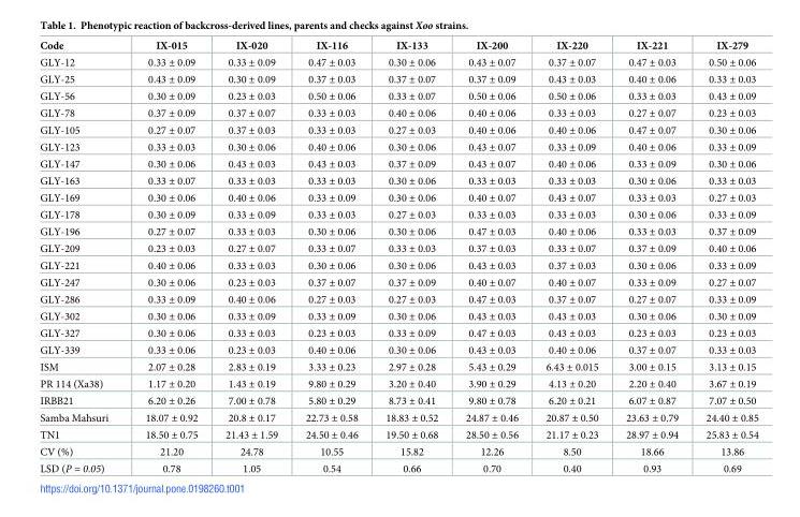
<table><thead><tr><td>Code</td><td>IX-015</td><td>IX-020</td><td>IX-116</td><td>IX-133</td><td>IX-200</td><td>IX-220</td><td>IX-221</td><td>IX-279</td></tr></thead><tbody><tr><td>GLY-12</td><td>0.33 ± 0.09</td><td>0.33 ± 0.09</td><td>0.47 ± 0.03</td><td>0.30 ± 0.06</td><td>0.43 ± 0.07</td><td>0.37 ± 0.07</td><td>0.47 ± 0.03</td><td>0.50 ± 0.06</td></tr><tr><td>GLY-25</td><td>0.43 ± 0.09</td><td>0.30 ± 0.09</td><td>0.37 ± 0.03</td><td>0.37 ± 0.07</td><td>0.37 ± 0.09</td><td>0.43 ± 0.03</td><td>0.40 ± 0.06</td><td>0.33 ± 0.03</td></tr><tr><td>GLY-56</td><td>0.30 ± 0.09</td><td>0.23 ± 0.03</td><td>0.50 ± 0.06</td><td>0.33 ± 0.07</td><td>0.50 ± 0.06</td><td>0.50 ± 0.06</td><td>0.33 ± 0.03</td><td>0.43 ± 0.09</td></tr><tr><td>GLY-78</td><td>0.37 ± 0.09</td><td>0.37 ± 0.07</td><td>0.33 ± 0.03</td><td>0.40 ± 0.06</td><td>0.40 ± 0.06</td><td>0.33 ± 0.03</td><td>0.27 ± 0.07</td><td>0.23 ± 0.03</td></tr><tr><td>GLY-105</td><td>0.27 ± 0.07</td><td>0.37 ± 0.03</td><td>0.33 ± 0.03</td><td>0.27 ± 0.03</td><td>0.40 ± 0.06</td><td>0.40 ± 0.06</td><td>0.47 ± 0.07</td><td>0.30 ± 0.06</td></tr><tr><td>GLY-123</td><td>0.33 ± 0.03</td><td>0.30 ± 0.06</td><td>0.40 ± 0.06</td><td>0.30 ± 0.06</td><td>0.43 ± 0.07</td><td>0.33 ± 0.09</td><td>0.40 ± 0.06</td><td>0.33 ± 0.09</td></tr><tr><td>GLY-147</td><td>0.30 ± 0.06</td><td>0.43 ± 0.03</td><td>0.43 ± 0.03</td><td>0.37 ± 0.09</td><td>0.43 ± 0.07</td><td>0.40 ± 0.06</td><td>0.33 ± 0.09</td><td>0.30 ± 0.06</td></tr><tr><td>GLY-163</td><td>0.33 ± 0.07</td><td>0.33 ± 0.03</td><td>0.33 ± 0.03</td><td>0.30 ± 0.06</td><td>0.33 ± 0.03</td><td>0.33 ± 0.03</td><td>0.30 ± 0.06</td><td>0.33 ± 0.03</td></tr><tr><td>GLY-169</td><td>0.30 ± 0.06</td><td>0.40 ± 0.06</td><td>0.33 ± 0.09</td><td>0.30 ± 0.06</td><td>0.40 ± 0.07</td><td>0.43 ± 0.07</td><td>0.33 ± 0.03</td><td>0.27 ± 0.03</td></tr><tr><td>GLY-178</td><td>0.30 ± 0.09</td><td>0.33 ± 0.09</td><td>0.33 ± 0.03</td><td>0.27 ± 0.03</td><td>0.33 ± 0.03</td><td>0.33 ± 0.03</td><td>0.30 ± 0.06</td><td>0.33 ± 0.09</td></tr><tr><td>GLY-196</td><td>0.27 ± 0.07</td><td>0.33 ± 0.03</td><td>0.30 ± 0.06</td><td>0.30 ± 0.06</td><td>0.47 ± 0.03</td><td>0.40 ± 0.06</td><td>0.33 ± 0.03</td><td>0.37 ± 0.09</td></tr><tr><td>GLY-209</td><td>0.23 ± 0.03</td><td>0.27 ± 0.07</td><td>0.33 ± 0.07</td><td>0.33 ± 0.03</td><td>0.37 ± 0.03</td><td>0.33 ± 0.07</td><td>0.37 ± 0.09</td><td>0.40 ± 0.06</td></tr><tr><td>GLY-221</td><td>0.40 ± 0.06</td><td>0.33 ± 0.03</td><td>0.30 ± 0.06</td><td>0.30 ± 0.06</td><td>0.43 ± 0.03</td><td>0.37 ± 0.03</td><td>0.30 ± 0.06</td><td>0.33 ± 0.09</td></tr><tr><td>GLY-247</td><td>0.30 ± 0.06</td><td>0.23 ± 0.03</td><td>0.37 ± 0.07</td><td>0.37 ± 0.09</td><td>0.40 ± 0.07</td><td>0.40 ± 0.07</td><td>0.33 ± 0.09</td><td>0.27 ± 0.07</td></tr><tr><td>GLY-286</td><td>0.33 ± 0.09</td><td>0.40 ± 0.06</td><td>0.27 ± 0.03</td><td>0.27 ± 0.03</td><td>0.47 ± 0.03</td><td>0.37 ± 0.07</td><td>0.27 ± 0.07</td><td>0.33 ± 0.09</td></tr><tr><td>GLY-302</td><td>0.30 ± 0.06</td><td>0.33 ± 0.09</td><td>0.33 ± 0.09</td><td>0.30 ± 0.06</td><td>0.43 ± 0.03</td><td>0.43 ± 0.03</td><td>0.30 ± 0.06</td><td>0.30 ± 0.09</td></tr><tr><td>GLY-327</td><td>0.30 ± 0.06</td><td>0.33 ± 0.03</td><td>0.23 ± 0.03</td><td>0.33 ± 0.09</td><td>0.47 ± 0.03</td><td>0.43 ± 0.03</td><td>0.23 ± 0.03</td><td>0.23 ± 0.03</td></tr><tr><td>GLY-339</td><td>0.33 ± 0.06</td><td>0.23 ± 0.03</td><td>0.40 ± 0.06</td><td>0.30 ± 0.06</td><td>0.43 ± 0.03</td><td>0.40 ± 0.06</td><td>0.37 ± 0.07</td><td>0.33 ± 0.03</td></tr><tr><td>ISM</td><td>2.07 ± 0.28</td><td>2.83 ± 0.19</td><td>3.33 ± 0.23</td><td>2.97 ± 0.28</td><td>5.43 ± 0.29</td><td>6.43 ± 0.015</td><td>3.00 ± 0.15</td><td>3.13 ± 0.15</td></tr><tr><td>PR 114 (Xa38)</td><td>1.17 ± 0.20</td><td>1.43 ± 0.19</td><td>9.80 ± 0.29</td><td>3.20 ± 0.40</td><td>3.90 ± 0.29</td><td>4.13 ± 0.20</td><td>2.20 ± 0.40</td><td>3.67 ± 0.19</td></tr><tr><td>IRBB21</td><td>6.20 ± 0.26</td><td>7.00 ± 0.78</td><td>5.80 ± 0.29</td><td>8.73 ± 0.41</td><td>9.80 ± 0.78</td><td>6.20 ± 0.21</td><td>6.07 ± 0.87</td><td>7.07 ± 0.50</td></tr><tr><td>Samba Mahsuri</td><td>18.07 ± 0.92</td><td>20.8 ± 0.17</td><td>22.73 ± 0.58</td><td>18.83 ± 0.52</td><td>24.87 ± 0.46</td><td>20.87 ± 0.50</td><td>23.63 ± 0.79</td><td>24.40 ± 0.85</td></tr><tr><td>TN1</td><td>18.50 ± 0.75</td><td>21.43 ± 1.59</td><td>24.50 ± 0.46</td><td>19.50 ± 0.68</td><td>28.50 ± 0.56</td><td>21.17 ± 0.23</td><td>28.97 ± 0.94</td><td>25.83 ± 0.54</td></tr><tr><td>CV (%)</td><td>21.20</td><td>24.78</td><td>10.55</td><td>15.82</td><td>12.26</td><td>8.50</td><td>18.66</td><td>13.86</td></tr><tr><td>LSD (P = 0.05)</td><td>0.78</td><td>1.05</td><td>0.54</td><td>0.66</td><td>0.70</td><td>0.40</td><td>0.93</td><td>0.69</td></tr></tbody></table>